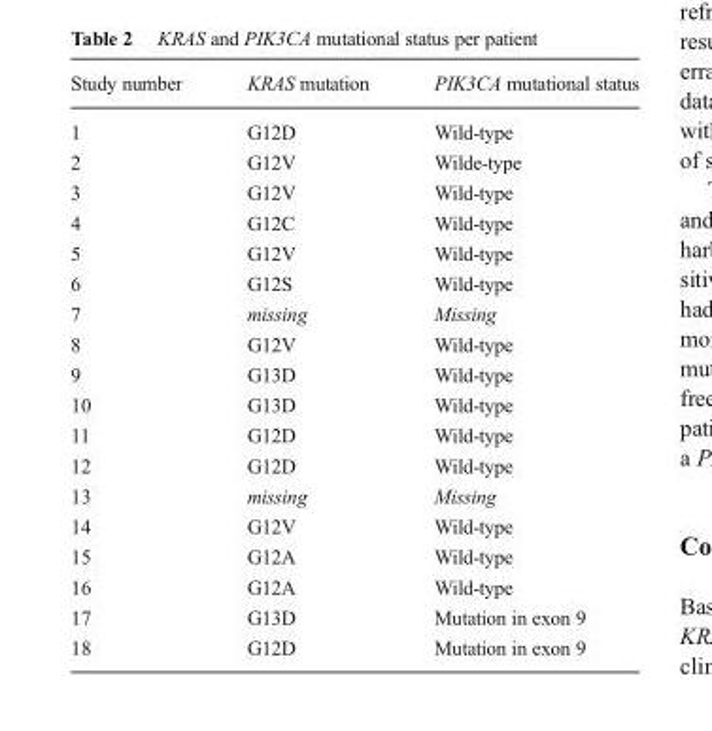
<table><thead><tr><td>Study number</td><td>KRAS mutation</td><td>PIK3CA mutational status</td></tr></thead><tbody><tr><td>1</td><td>G12D</td><td>Wild-type</td></tr><tr><td>2</td><td>G12V</td><td>Wilde-type</td></tr><tr><td>3</td><td>G12V</td><td>Wild-type</td></tr><tr><td>4</td><td>G12C</td><td>Wild-type</td></tr><tr><td>5</td><td>G12V</td><td>Wild-type</td></tr><tr><td>6</td><td>G12S</td><td>Wild-type</td></tr><tr><td>7</td><td>missing</td><td>Missing</td></tr><tr><td>8</td><td>G12V</td><td>Wild-type</td></tr><tr><td>9</td><td>G13D</td><td>Wild-type</td></tr><tr><td>10</td><td>G13D</td><td>Wild-type</td></tr><tr><td>11</td><td>G12D</td><td>Wild-type</td></tr><tr><td>12</td><td>G12D</td><td>Wild-type</td></tr><tr><td>13</td><td>missing</td><td>Missing</td></tr><tr><td>14</td><td>G12V</td><td>Wild-type</td></tr><tr><td>15</td><td>G12A</td><td>Wild-type</td></tr><tr><td>16</td><td>G12A</td><td>Wild-type</td></tr><tr><td>17</td><td>G13D</td><td>Mutation in exon 9</td></tr><tr><td>18</td><td>G12D</td><td>Mutation in exon 9</td></tr></tbody></table>